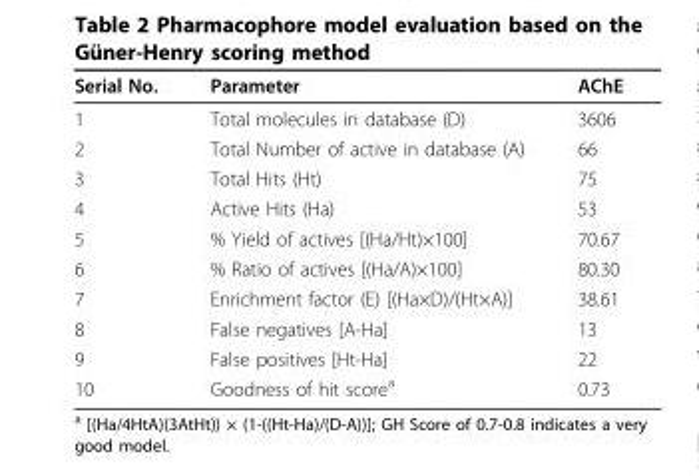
<table><thead><tr><td>Serial No.</td><td>Parameter</td><td>AChE</td></tr></thead><tbody><tr><td>1</td><td>Total molecules in database (D)</td><td>3606</td></tr><tr><td>2</td><td>Total Number of active in database (A)</td><td>66</td></tr><tr><td>3</td><td>Total Hits (Ht)</td><td>75</td></tr><tr><td>4</td><td>Active Hits (Ha)</td><td>53</td></tr><tr><td>5</td><td>% Yield of actives [(Ha/Ht)×100]</td><td>70.67</td></tr><tr><td>6</td><td>% Ratio of actives [(Ha/A)×100]</td><td>80.30</td></tr><tr><td>7</td><td>Enrichment factor (E) [(Ha×D)/(Ht×A)]</td><td>38.61</td></tr><tr><td>8</td><td>False negatives [A-Ha]</td><td>13</td></tr><tr><td>9</td><td>False positives [Ht-Ha]</td><td>22</td></tr><tr><td>10</td><td>Goodness of hit score<sup>a</sup></td><td>0.73</td></tr></tbody></table>